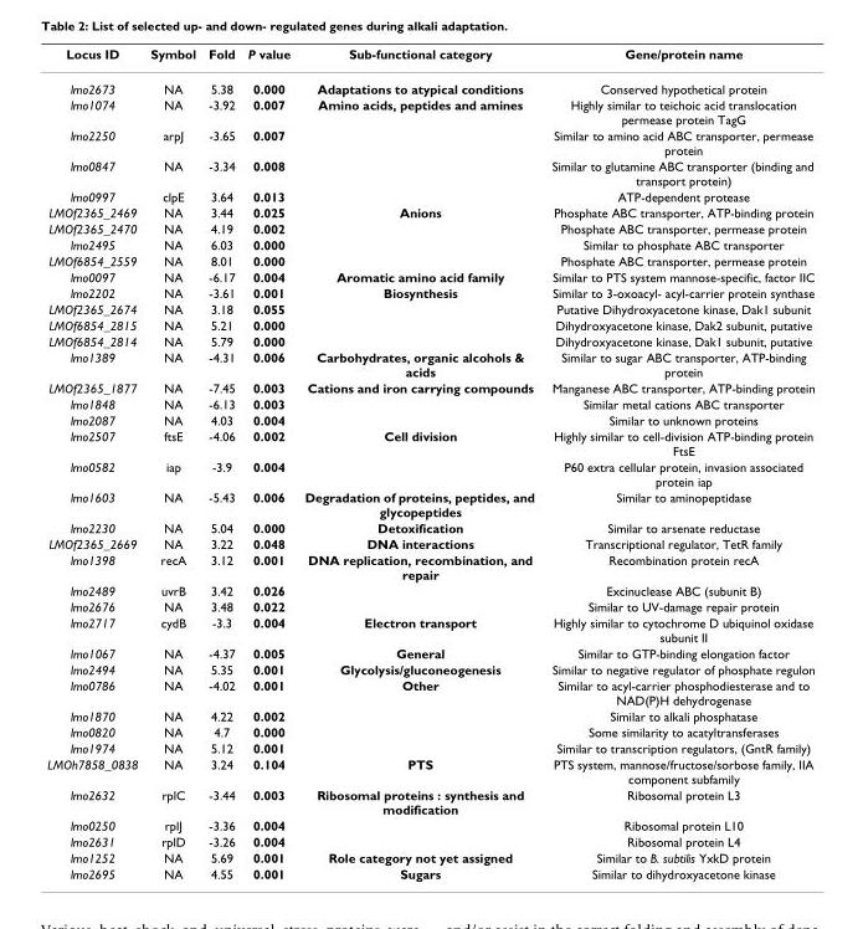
<table><thead><tr><td>Locus ID</td><td>Symbol</td><td>Fold</td><td>P value</td><td>Sub-functional category</td><td>Gene/protein name</td></tr></thead><tbody><tr><td>lmo2673</td><td>NA</td><td>5.38</td><td>0.000</td><td>Adaptations to atypical conditions</td><td>Conserved hypothetical protein</td></tr><tr><td>lmo1074</td><td>NA</td><td>-3.92</td><td>0.007</td><td>Amino acids, peptides and amines</td><td>Highly similar to teichoic acid translocation permease protein TagG</td></tr><tr><td>lmo2250</td><td>arpJ</td><td>-3.65</td><td>0.007</td><td></td><td>Similar to amino acid ABC transporter, permease protein</td></tr><tr><td>lmo0847</td><td>NA</td><td>-3.34</td><td>0.008</td><td></td><td>Similar to glutamine ABC transporter (binding and transport protein)</td></tr><tr><td>lmo0997</td><td>clpE</td><td>3.64</td><td>0.013</td><td></td><td>ATP-dependent protease</td></tr><tr><td>LMOf2365_2469</td><td>NA</td><td>3.44</td><td>0.025</td><td>Anions</td><td>Phosphate ABC transporter, ATP-binding protein</td></tr><tr><td>LMOf2365_2470</td><td>NA</td><td>4.19</td><td>0.002</td><td></td><td>Phosphate ABC transporter, permease protein</td></tr><tr><td>lmo2495</td><td>NA</td><td>6.03</td><td>0.000</td><td></td><td>Similar to phosphate ABC transporter</td></tr><tr><td>LMOf6854_2559</td><td>NA</td><td>8.01</td><td>0.000</td><td></td><td>Phosphate ABC transporter, permease protein</td></tr><tr><td>lmo0097</td><td>NA</td><td>-6.17</td><td>0.004</td><td>Aromatic amino acid family</td><td>Similar to PTS system mannose-specific, factor IIC</td></tr><tr><td>lmo2202</td><td>NA</td><td>-3.61</td><td>0.001</td><td>Biosynthesis</td><td>Similar to 3-oxoacyl- acyl-carrier protein synthase</td></tr><tr><td>LMOf2365_2674</td><td>NA</td><td>3.18</td><td>0.055</td><td></td><td>Putative Dihydroxyacetone kinase, Dak1 subunit</td></tr><tr><td>LMOf6854_2815</td><td>NA</td><td>5.21</td><td>0.000</td><td></td><td>Dihydroxyacetone kinase, Dak2 subunit, putative</td></tr><tr><td>LMOf6854_2814</td><td>NA</td><td>5.79</td><td>0.000</td><td></td><td>Dihydroxyacetone kinase, Dak1 subunit, putative</td></tr><tr><td>lmo1389</td><td>NA</td><td>-4.31</td><td>0.006</td><td>Carbohydrates, organic alcohols &amp; acids</td><td>Similar to sugar ABC transporter, ATP-binding protein</td></tr><tr><td>LMOf2365_1877</td><td>NA</td><td>-7.45</td><td>0.003</td><td>Cations and iron carrying compounds</td><td>Manganese ABC transporter, ATP-binding protein</td></tr><tr><td>lmo1848</td><td>NA</td><td>-6.13</td><td>0.003</td><td></td><td>Similar metal cations ABC transporter</td></tr><tr><td>lmo2087</td><td>NA</td><td>4.03</td><td>0.004</td><td></td><td>Similar to unknown proteins</td></tr><tr><td>lmo2507</td><td>ftsE</td><td>-4.06</td><td>0.002</td><td>Cell division</td><td>Highly similar to cell-division ATP-binding protein FtsE</td></tr><tr><td>lmo0582</td><td>iap</td><td>-3.9</td><td>0.004</td><td></td><td>P60 extra cellular protein, invasion associated protein iap</td></tr><tr><td>lmo1603</td><td>NA</td><td>-5.43</td><td>0.006</td><td>Degradation of proteins, peptides, and glycopeptides</td><td>Similar to aminopeptidase</td></tr><tr><td>lmo2230</td><td>NA</td><td>5.04</td><td>0.000</td><td>Detoxification</td><td>Similar to arsenate reductase</td></tr><tr><td>LMOf2365_2669</td><td>NA</td><td>3.22</td><td>0.048</td><td>DNA interactions</td><td>Transcriptional regulator, TetR family</td></tr><tr><td>lmo1398</td><td>recA</td><td>3.12</td><td>0.001</td><td>DNA replication, recombination, and repair</td><td>Recombination protein recA</td></tr><tr><td>lmo2489</td><td>uvrB</td><td>3.42</td><td>0.026</td><td></td><td>Excinuclease ABC (subunit B)</td></tr><tr><td>lmo2676</td><td>NA</td><td>3.48</td><td>0.022</td><td></td><td>Similar to UV-damage repair protein</td></tr><tr><td>lmo2717</td><td>cydB</td><td>-3.3</td><td>0.004</td><td>Electron transport</td><td>Highly similar to cytochrome D ubiquinol oxidase subunit II</td></tr><tr><td>lmo1067</td><td>NA</td><td>-4.37</td><td>0.005</td><td>General</td><td>Similar to GTP-binding elongation factor</td></tr><tr><td>lmo2494</td><td>NA</td><td>5.35</td><td>0.001</td><td>Glycolysis/gluconeogenesis</td><td>Similar to negative regulator of phosphate regulon</td></tr><tr><td>lmo0786</td><td>NA</td><td>-4.02</td><td>0.001</td><td>Other</td><td>Similar to acyl-carrier phosphodiesterase and to NAD(P)H dehydrogenase</td></tr><tr><td>lmo1870</td><td>NA</td><td>4.22</td><td>0.002</td><td></td><td>Similar to alkali phosphatase</td></tr><tr><td>lmo0820</td><td>NA</td><td>4.7</td><td>0.000</td><td></td><td>Some similarity to acatyltransferases</td></tr><tr><td>lmo1974</td><td>NA</td><td>5.12</td><td>0.001</td><td></td><td>Similar to transcription regulators, (GntR family)</td></tr><tr><td>LMOh7858_0838</td><td>NA</td><td>3.24</td><td>0.104</td><td>PTS</td><td>PTS system, mannose/fructose/sorbose family, IIA component subfamily</td></tr><tr><td>lmo2632</td><td>rplC</td><td>-3.44</td><td>0.003</td><td>Ribosomal proteins : synthesis and modification</td><td>Ribosomal protein L3</td></tr><tr><td>lmo0250</td><td>rplJ</td><td>-3.36</td><td>0.004</td><td></td><td>Ribosomal protein L10</td></tr><tr><td>lmo2631</td><td>rplD</td><td>-3.26</td><td>0.004</td><td></td><td>Ribosomal protein L4</td></tr><tr><td>lmo1252</td><td>NA</td><td>5.69</td><td>0.001</td><td>Role category not yet assigned</td><td>Similar to B. subtilis YxkD protein</td></tr><tr><td>lmo2695</td><td>NA</td><td>4.55</td><td>0.001</td><td>Sugars</td><td>Similar to dihydroxyacetone kinase</td></tr></tbody></table>